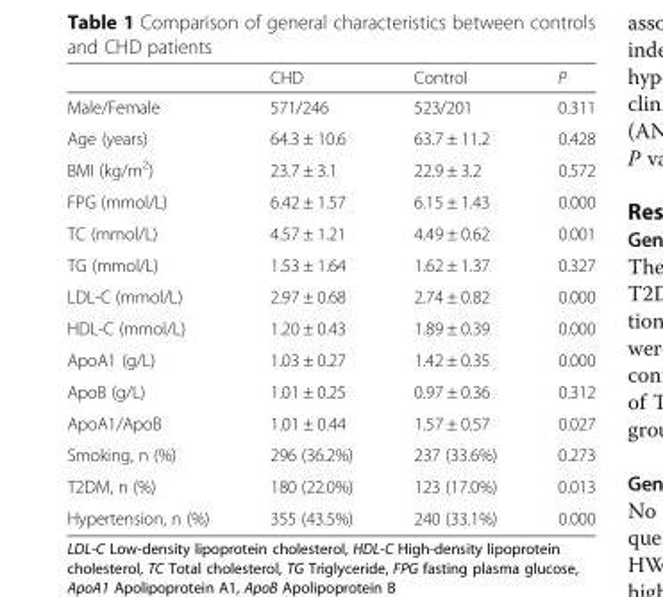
<table><thead><tr><td></td><td>CHD</td><td>Control</td><td>P</td></tr></thead><tbody><tr><td>Male/Female</td><td>571/246</td><td>523/201</td><td>0.311</td></tr><tr><td>Age (years)</td><td>64.3 ± 10.6</td><td>63.7 ± 11.2</td><td>0.428</td></tr><tr><td>BMI (kg/m<sup>2</sup>)</td><td>23.7 ± 3.1</td><td>22.9 ± 3.2</td><td>0.572</td></tr><tr><td>FPG (mmol/L)</td><td>6.42 ± 1.57</td><td>6.15 ± 1.43</td><td>0.000</td></tr><tr><td>TC (mmol/L)</td><td>4.57 ± 1.21</td><td>4.49 ± 0.62</td><td>0.001</td></tr><tr><td>TG (mmol/L)</td><td>1.53 ± 1.64</td><td>1.62 ± 1.37</td><td>0.327</td></tr><tr><td>LDL-C (mmol/L)</td><td>2.97 ± 0.68</td><td>2.74 ± 0.82</td><td>0.000</td></tr><tr><td>HDL-C (mmol/L)</td><td>1.20 ± 0.43</td><td>1.89 ± 0.39</td><td>0.000</td></tr><tr><td>ApoA1 (g/L)</td><td>1.03 ± 0.27</td><td>1.42 ± 0.35</td><td>0.000</td></tr><tr><td>ApoB (g/L)</td><td>1.01 ± 0.25</td><td>0.97 ± 0.36</td><td>0.312</td></tr><tr><td>ApoA1/ApoB</td><td>1.01 ± 0.44</td><td>1.57 ± 0.57</td><td>0.027</td></tr><tr><td>Smoking, n (%)</td><td>296 (36.2%)</td><td>237 (33.6%)</td><td>0.273</td></tr><tr><td>T2DM, n (%)</td><td>180 (22.0%)</td><td>123 (17.0%)</td><td>0.013</td></tr><tr><td>Hypertension, n (%)</td><td>355 (43.5%)</td><td>240 (33.1%)</td><td>0.000</td></tr></tbody></table>